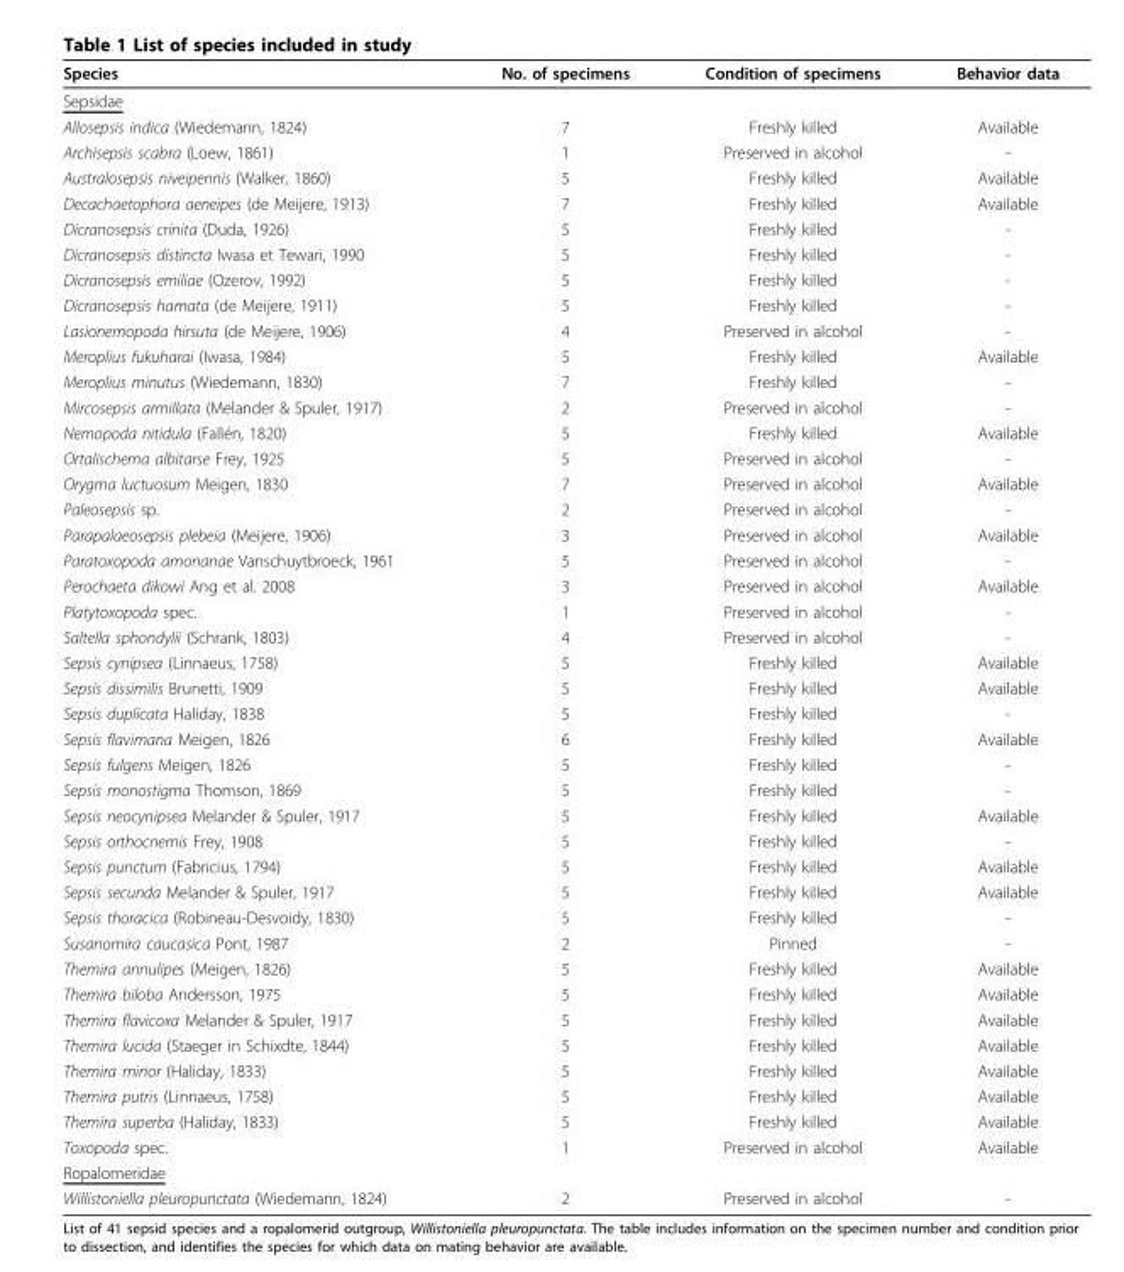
<table><thead><tr><td>Species</td><td>No. of specimens</td><td>Condition of specimens</td><td>Behavior data</td></tr></thead><tbody><tr><td colspan="4">Sepsidae</td></tr><tr><td>Allosepsis indica (Wiedemann, 1824)</td><td>7</td><td>Freshly killed</td><td>Available</td></tr><tr><td>Archisepsis scabra (Loew, 1861)</td><td>1</td><td>Preserved in alcohol</td><td>-</td></tr><tr><td>Australosepsis niveipennis (Walker, 1860)</td><td>5</td><td>Freshly killed</td><td>Available</td></tr><tr><td>Decachaetophora aeneipes (de Meijere, 1913)</td><td>7</td><td>Freshly killed</td><td>Available</td></tr><tr><td>Dicranosepsis crinita (Duda, 1926)</td><td>5</td><td>Freshly killed</td><td>-</td></tr><tr><td>Dicranosepsis distincta Iwasa et Tewari, 1990</td><td>5</td><td>Freshly killed</td><td>-</td></tr><tr><td>Dicranosepsis emiliae (Ozerov, 1992)</td><td>5</td><td>Freshly killed</td><td>-</td></tr><tr><td>Dicranosepsis hamata (de Meijere, 1911)</td><td>5</td><td>Freshly killed</td><td>-</td></tr><tr><td>Lasionemopoda hirsuta (de Meijere, 1906)</td><td>4</td><td>Preserved in alcohol</td><td>-</td></tr><tr><td>Meroplius fukuharai (Iwasa, 1984)</td><td>5</td><td>Freshly killed</td><td>Available</td></tr><tr><td>Meroplius minutus (Wiedemann, 1830)</td><td>7</td><td>Freshly killed</td><td>-</td></tr><tr><td>Mircosepsis armillata (Melander &amp; Spuler, 1917)</td><td>2</td><td>Preserved in alcohol</td><td>-</td></tr><tr><td>Nemopoda nitidula (Fallén, 1820)</td><td>5</td><td>Freshly killed</td><td>Available</td></tr><tr><td>Ortalischema albitarse Frey, 1925</td><td>5</td><td>Preserved in alcohol</td><td>-</td></tr><tr><td>Orygma luctuosum Meigen, 1830</td><td>7</td><td>Preserved in alcohol</td><td>Available</td></tr><tr><td>Paleosepsis sp.</td><td>2</td><td>Preserved in alcohol</td><td>-</td></tr><tr><td>Parapalaeosepsis plebeia (Meijere, 1906)</td><td>3</td><td>Preserved in alcohol</td><td>Available</td></tr><tr><td>Paratoxopoda amonanae Vanschuytbroeck, 1961</td><td>5</td><td>Preserved in alcohol</td><td>-</td></tr><tr><td>Perochaeta dikowi Ang et al. 2008</td><td>3</td><td>Preserved in alcohol</td><td>Available</td></tr><tr><td>Platytoxopoda spec.</td><td>1</td><td>Preserved in alcohol</td><td>-</td></tr><tr><td>Saltella sphondylii (Schrank, 1803)</td><td>4</td><td>Preserved in alcohol</td><td>-</td></tr><tr><td>Sepsis cynipsea (Linnaeus, 1758)</td><td>5</td><td>Freshly killed</td><td>Available</td></tr><tr><td>Sepsis dissimilis Brunetti, 1909</td><td>5</td><td>Freshly killed</td><td>Available</td></tr><tr><td>Sepsis duplicata Haliday, 1838</td><td>5</td><td>Freshly killed</td><td>-</td></tr><tr><td>Sepsis flavimana Meigen, 1826</td><td>6</td><td>Freshly killed</td><td>Available</td></tr><tr><td>Sepsis fulgens Meigen, 1826</td><td>5</td><td>Freshly killed</td><td>-</td></tr><tr><td>Sepsis monostigma Thomson, 1869</td><td>5</td><td>Freshly killed</td><td>-</td></tr><tr><td>Sepsis neocynipsea Melander &amp; Spuler, 1917</td><td>5</td><td>Freshly killed</td><td>Available</td></tr><tr><td>Sepsis orthocnemis Frey, 1908</td><td>5</td><td>Freshly killed</td><td>-</td></tr><tr><td>Sepsis punctum (Fabricius, 1794)</td><td>5</td><td>Freshly killed</td><td>Available</td></tr><tr><td>Sepsis secunda Melander &amp; Spuler, 1917</td><td>5</td><td>Freshly killed</td><td>Available</td></tr><tr><td>Sepsis thoracica (Robineau-Desvoidy, 1830)</td><td>5</td><td>Freshly killed</td><td>-</td></tr><tr><td>Susanomira caucasica Pont, 1987</td><td>2</td><td>Pinned</td><td>-</td></tr><tr><td>Themira annulipes (Meigen, 1826)</td><td>5</td><td>Freshly killed</td><td>Available</td></tr><tr><td>Themira biloba Andersson, 1975</td><td>5</td><td>Freshly killed</td><td>Available</td></tr><tr><td>Themira flavicoxa Melander &amp; Spuler, 1917</td><td>5</td><td>Freshly killed</td><td>Available</td></tr><tr><td>Themira lucida (Staeger in Schixdte, 1844)</td><td>5</td><td>Freshly killed</td><td>Available</td></tr><tr><td>Themira minor (Haliday, 1833)</td><td>5</td><td>Freshly killed</td><td>Available</td></tr><tr><td>Themira putris (Linnaeus, 1758)</td><td>5</td><td>Freshly killed</td><td>Available</td></tr><tr><td>Themira superba (Haliday, 1833)</td><td>5</td><td>Freshly killed</td><td>Available</td></tr><tr><td>Toxopoda spec.</td><td>1</td><td>Preserved in alcohol</td><td>Available</td></tr><tr><td colspan="4">Ropalomeridae</td></tr><tr><td>Willistoniella pleuropunctata (Wiedemann, 1824)</td><td>2</td><td>Preserved in alcohol</td><td>-</td></tr></tbody></table>